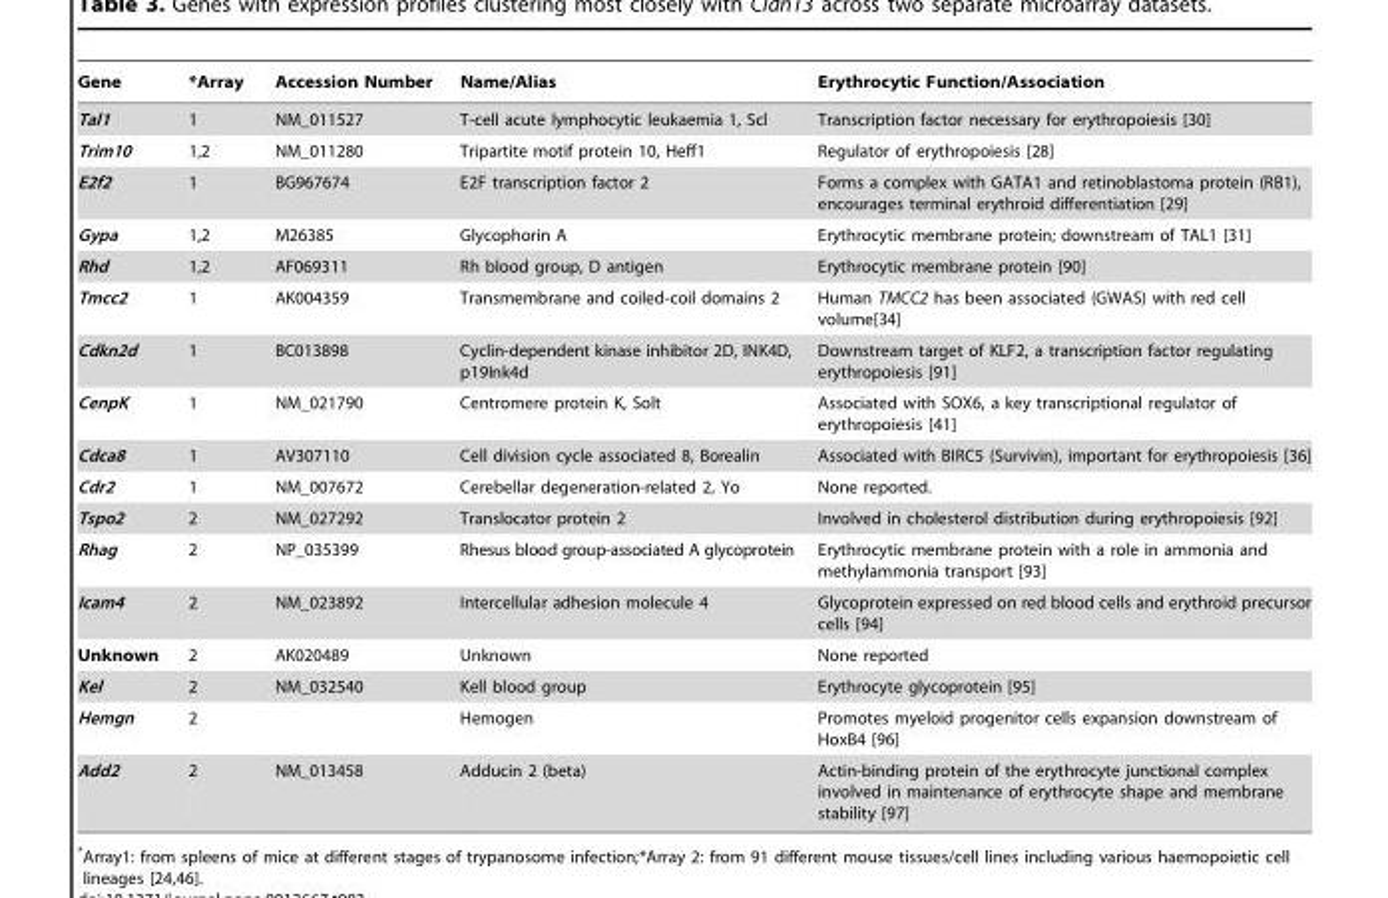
<table><thead><tr><td>Gene</td><td>*Array</td><td>Accession Number</td><td>Name/Alias</td><td>Erythrocytic Function/Association</td></tr></thead><tbody><tr><td>Tal1</td><td>1</td><td>NM_011527</td><td>T-cell acute lymphocytic leukaemia 1, Scl</td><td>Transcription factor necessary for erythropoiesis [30]</td></tr><tr><td>Trim10</td><td>1,2</td><td>NM_011280</td><td>Tripartite motif protein 10, Heff1</td><td>Regulator of erythropoiesis [28]</td></tr><tr><td>E2f2</td><td>1</td><td>BG967674</td><td>E2F transcription factor 2</td><td>Forms a complex with GATA1 and retinoblastoma protein (RB1), encourages terminal erythroid differentiation [29]</td></tr><tr><td>Gypa</td><td>1,2</td><td>M26385</td><td>Glycophorin A</td><td>Erythrocytic membrane protein; downstream of TAL1 [31]</td></tr><tr><td>Rhd</td><td>1,2</td><td>AF069311</td><td>Rh blood group, D antigen</td><td>Erythrocytic membrane protein [90]</td></tr><tr><td>Tmcc2</td><td>1</td><td>AK004359</td><td>Transmembrane and coiled-coil domains 2</td><td>Human TMCC2 has been associated (GWAS) with red cell volume[34]</td></tr><tr><td>Cdkn2d</td><td>1</td><td>BC013898</td><td>Cyclin-dependent kinase inhibitor 2D, INK4D, p19Ink4d</td><td>Downstream target of KLF2, a transcription factor regulating erythropoiesis [91]</td></tr><tr><td>CenpK</td><td>1</td><td>NM_021790</td><td>Centromere protein K, Solt</td><td>Associated with SOX6, a key transcriptional regulator of erythropoiesis [41]</td></tr><tr><td>Cdca8</td><td>1</td><td>AV307110</td><td>Cell division cycle associated 8, Borealin</td><td>Associated with BIRC5 (Survivin), important for erythropoiesis [36]</td></tr><tr><td>Cdr2</td><td>1</td><td>NM_007672</td><td>Cerebellar degeneration-related 2, Yo</td><td>None reported.</td></tr><tr><td>Tspo2</td><td>2</td><td>NM_027292</td><td>Translocator protein 2</td><td>Involved in cholesterol distribution during erythropoiesis [92]</td></tr><tr><td>Rhag</td><td>2</td><td>NP_035399</td><td>Rhesus blood group-associated A glycoprotein</td><td>Erythrocytic membrane protein with a role in ammonia and methylammonia transport [93]</td></tr><tr><td>Icam4</td><td>2</td><td>NM_023892</td><td>Intercellular adhesion molecule 4</td><td>Glycoprotein expressed on red blood cells and erythroid precursor cells [94]</td></tr><tr><td>Unknown</td><td>2</td><td>AK020489</td><td>Unknown</td><td>None reported</td></tr><tr><td>Kel</td><td>2</td><td>NM_032540</td><td>Kell blood group</td><td>Erythrocyte glycoprotein [95]</td></tr><tr><td>Hemgn</td><td>2</td><td></td><td>Hemogen</td><td>Promotes myeloid progenitor cells expansion downstream of HoxB4 [96]</td></tr><tr><td>Add2</td><td>2</td><td>NM_013458</td><td>Adducin 2 (beta)</td><td>Actin-binding protein of the erythrocyte junctional complex involved in maintenance of erythrocyte shape and membrane stability [97]</td></tr></tbody></table>